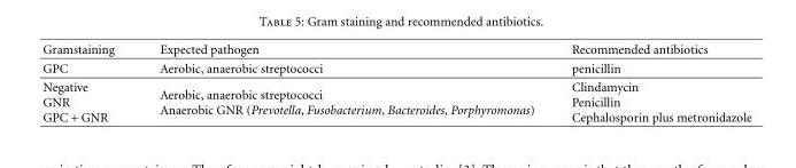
<table><thead><tr><td>Gramstaining</td><td>Expected pathogen</td><td>Recommended antibiotics</td></tr></thead><tbody><tr><td>GPC</td><td>Aerobic, anaerobic streptococci</td><td>penicillin</td></tr><tr><td>Negative GNR GPC + GNR</td><td>Aerobic, anaerobic streptococci Anaerobic GNR (Prevotella, Fusobacterium, Bacteroides, Porphyromonas)</td><td>Clindamycin Penicillin Cephalosporin plus metronidazole</td></tr></tbody></table>